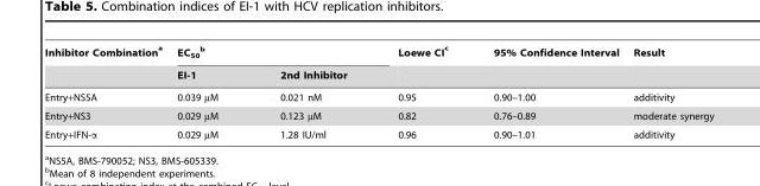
<table><thead><tr><td rowspan="2">Inhibitor Combination <sup>a</sup></td><td colspan="2">EC<sub>50</sub> b</td><td rowspan="2">Loewe CI <sup>c</sup></td><td rowspan="2">95% Confidence Interval</td><td rowspan="2">Result</td></tr><tr><td>EI-1</td><td>2nd Inhibitor</td></tr></thead><tbody><tr><td>Entry+NS5A</td><td>0.039 µM</td><td>0.021 nM</td><td>0.95</td><td>0.90–1.00</td><td>additivity</td></tr><tr><td>Entry+NS3</td><td>0.029 µM</td><td>0.123 µM</td><td>0.82</td><td>0.76–0.89</td><td>moderate synergy</td></tr><tr><td>Entry+IFN-α</td><td>0.029 µM</td><td>1.28 IU/ml</td><td>0.96</td><td>0.90–1.01</td><td>additivity</td></tr></tbody></table>